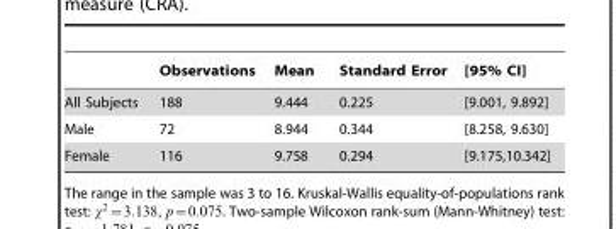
<table><thead><tr><td></td><td>Observations</td><td>Mean</td><td>Standard Error</td><td>[95% CI]</td></tr></thead><tbody><tr><td>All Subjects</td><td>188</td><td>9.444</td><td>0.225</td><td>[9.001, 9.892]</td></tr><tr><td>Male</td><td>72</td><td>8.944</td><td>0.344</td><td>[8.258, 9.630]</td></tr><tr><td>Female</td><td>116</td><td>9.758</td><td>0.294</td><td>[9.175,10.342]</td></tr></tbody></table>